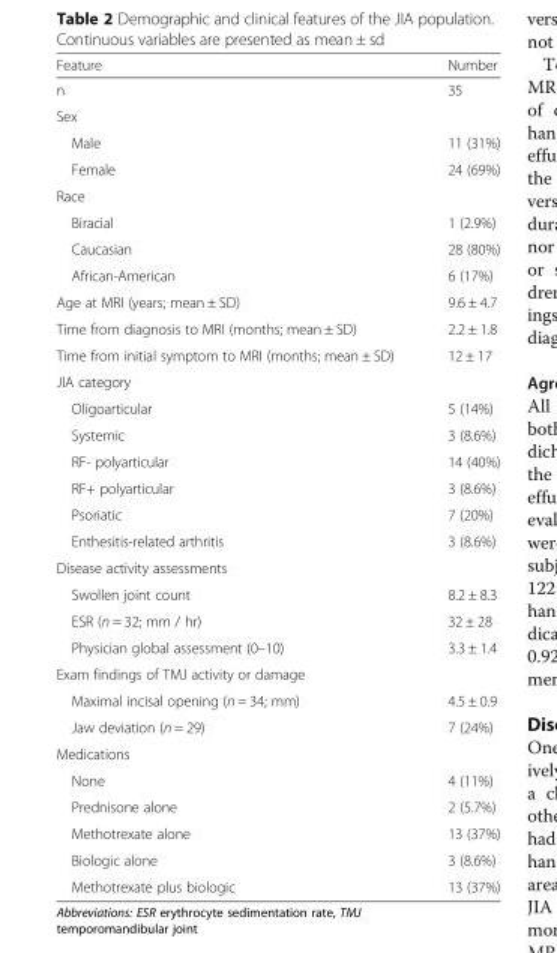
<table><thead><tr><td>Feature</td><td>Number</td></tr></thead><tbody><tr><td>n</td><td>35</td></tr><tr><td colspan="2">Sex</td></tr><tr><td>Male</td><td>11 (31%)</td></tr><tr><td>Female</td><td>24 (69%)</td></tr><tr><td colspan="2">Race</td></tr><tr><td>Biracial</td><td>1 (2.9%)</td></tr><tr><td>Caucasian</td><td>28 (80%)</td></tr><tr><td>African-American</td><td>6 (17%)</td></tr><tr><td>Age at MRI (years; mean ± SD)</td><td>9.6 ± 4.7</td></tr><tr><td>Time from diagnosis to MRI (months; mean ± SD)</td><td>2.2 ± 1.8</td></tr><tr><td>Time from initial symptom to MRI (months; mean ± SD)</td><td>12 ± 17</td></tr><tr><td colspan="2">JIA category</td></tr><tr><td>Oligoarticular</td><td>5 (14%)</td></tr><tr><td>Systemic</td><td>3 (8.6%)</td></tr><tr><td>RF- polyarticular</td><td>14 (40%)</td></tr><tr><td>RF+ polyarticular</td><td>3 (8.6%)</td></tr><tr><td>Psoriatic</td><td>7 (20%)</td></tr><tr><td>Enthesitis-related arthritis</td><td>3 (8.6%)</td></tr><tr><td colspan="2">Disease activity assessments</td></tr><tr><td>Swollen joint count</td><td>8.2 ± 8.3</td></tr><tr><td>ESR (n = 32; mm / hr)</td><td>32 ± 28</td></tr><tr><td>Physician global assessment (0–10)</td><td>3.3 ± 1.4</td></tr><tr><td colspan="2">Exam findings of TMJ activity or damage</td></tr><tr><td>Maximal incisal opening (n = 34; mm)</td><td>4.5 ± 0.9</td></tr><tr><td>Jaw deviation (n = 29)</td><td>7 (24%)</td></tr><tr><td colspan="2">Medications</td></tr><tr><td>None</td><td>4 (11%)</td></tr><tr><td>Prednisone alone</td><td>2 (5.7%)</td></tr><tr><td>Methotrexate alone</td><td>13 (37%)</td></tr><tr><td>Biologic alone</td><td>3 (8.6%)</td></tr><tr><td>Methotrexate plus biologic</td><td>13 (37%)</td></tr></tbody></table>